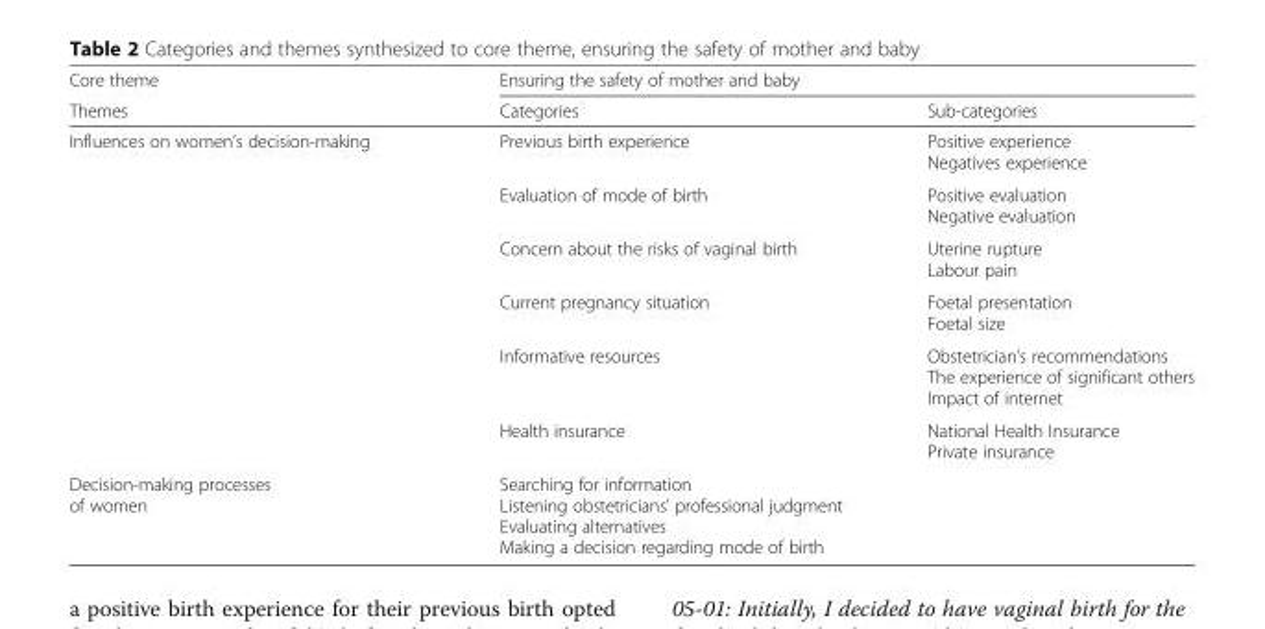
<table><thead><tr><td rowspan="2">Core theme Themes</td><td colspan="2">Ensuring the safety of mother and baby</td></tr><tr><td>Categories</td><td>Sub-categories</td></tr></thead><tbody><tr><td rowspan="6">Influences on women’s decision-making</td><td>Previous birth experience</td><td>Positive experience Negatives experience</td></tr><tr><td>Evaluation of mode of birth</td><td>Positive evaluation Negative evaluation</td></tr><tr><td>Concern about the risks of vaginal birth</td><td>Uterine rupture Labour pain</td></tr><tr><td>Current pregnancy situation</td><td>Foetal presentation Foetal size</td></tr><tr><td>Informative resources</td><td>Obstetrician’s recommendations The experience of significant others Impact of internet</td></tr><tr><td>Health insurance</td><td>National Health Insurance Private insurance</td></tr><tr><td>Decision-making processes of women</td><td colspan="2">Searching for information Listening obstetricians’ professional judgment Evaluating alternatives Making a decision regarding mode of birth</td></tr></tbody></table>